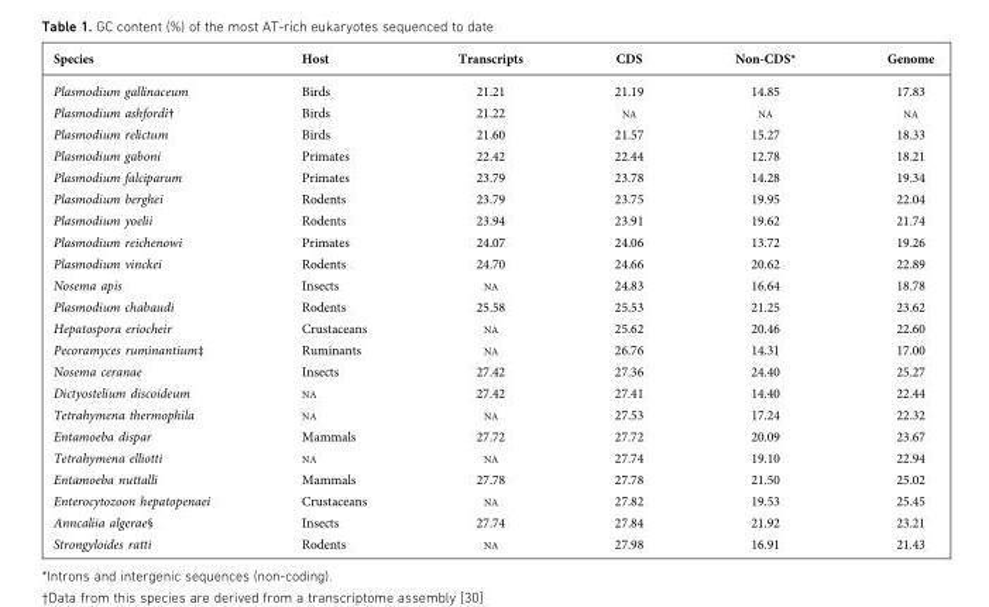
<table><thead><tr><td>Species</td><td>Host</td><td>Transcripts</td><td>CDS</td><td>Non-CDS*</td><td>Genome</td></tr></thead><tbody><tr><td>Plasmodium gallinaceum</td><td>Birds</td><td>21.21</td><td>21.19</td><td>14.85</td><td>17.83</td></tr><tr><td>Plasmodium ashfordi†</td><td>Birds</td><td>21.22</td><td>NA</td><td>NA</td><td>NA</td></tr><tr><td>Plasmodium relictum</td><td>Birds</td><td>21.60</td><td>21.57</td><td>15.27</td><td>18.33</td></tr><tr><td>Plasmodium gaboni</td><td>Primates</td><td>22.42</td><td>22.44</td><td>12.78</td><td>18.21</td></tr><tr><td>Plasmodium falciparum</td><td>Primates</td><td>23.79</td><td>23.78</td><td>14.28</td><td>19.34</td></tr><tr><td>Plasmodium berghei</td><td>Rodents</td><td>23.79</td><td>23.75</td><td>19.95</td><td>22.04</td></tr><tr><td>Plasmodium yoelii</td><td>Rodents</td><td>23.94</td><td>23.91</td><td>19.62</td><td>21.74</td></tr><tr><td>Plasmodium reichenowi</td><td>Primates</td><td>24.07</td><td>24.06</td><td>13.72</td><td>19.26</td></tr><tr><td>Plasmodium vinckei</td><td>Rodents</td><td>24.70</td><td>24.66</td><td>20.62</td><td>22.89</td></tr><tr><td>Nosema apis</td><td>Insects</td><td>NA</td><td>24.83</td><td>16.64</td><td>18.78</td></tr><tr><td>Plasmodium chabaudi</td><td>Rodents</td><td>25.58</td><td>25.53</td><td>21.25</td><td>23.62</td></tr><tr><td>Hepatospora eriocheir</td><td>Crustaceans</td><td>NA</td><td>25.62</td><td>20.46</td><td>22.60</td></tr><tr><td>Pecoramyces ruminantium‡</td><td>Ruminants</td><td>NA</td><td>26.76</td><td>14.31</td><td>17.00</td></tr><tr><td>Nosema ceranae</td><td>Insects</td><td>27.42</td><td>27.36</td><td>24.40</td><td>25.27</td></tr><tr><td>Dictyostelium discoideum</td><td>NA</td><td>27.42</td><td>27.41</td><td>14.40</td><td>22.44</td></tr><tr><td>Tetrahymena thermophila</td><td>NA</td><td>NA</td><td>27.53</td><td>17.24</td><td>22.32</td></tr><tr><td>Entamoeba dispar</td><td>Mammals</td><td>27.72</td><td>27.72</td><td>20.09</td><td>23.67</td></tr><tr><td>Tetrahymena elliotti</td><td>NA</td><td>NA</td><td>27.74</td><td>19.10</td><td>22.94</td></tr><tr><td>Entamoeba nuttalli</td><td>Mammals</td><td>27.78</td><td>27.78</td><td>21.50</td><td>25.02</td></tr><tr><td>Enterocytozoon hepatopenaei</td><td>Crustaceans</td><td>NA</td><td>27.82</td><td>19.53</td><td>25.45</td></tr><tr><td>Anncaliia algerae§</td><td>Insects</td><td>27.74</td><td>27.84</td><td>21.92</td><td>23.21</td></tr><tr><td>Strongyloides ratti</td><td>Rodents</td><td>NA</td><td>27.98</td><td>16.91</td><td>21.43</td></tr></tbody></table>